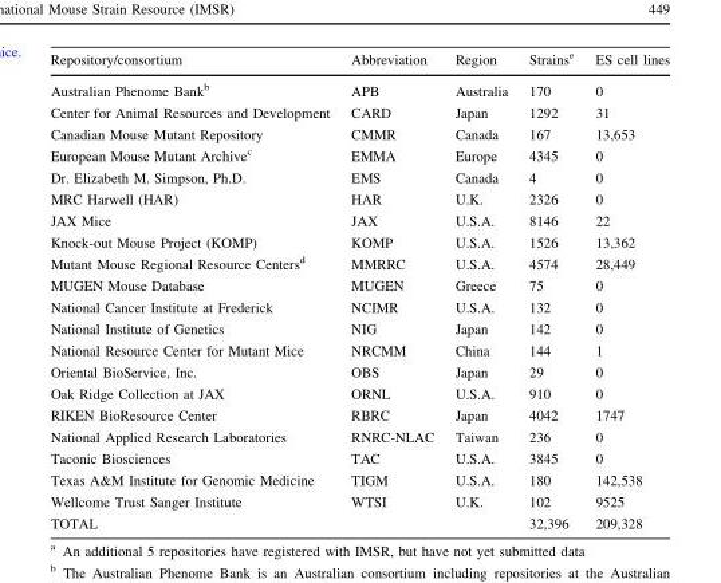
<table><thead><tr><td>Repository/consortium</td><td>Abbreviation</td><td>Region</td><td>Strains<sup>e</sup></td><td>ES cell lines</td></tr></thead><tbody><tr><td>Australian Phenome Bank<sup>b</sup></td><td>APB</td><td>Australia</td><td>170</td><td>0</td></tr><tr><td>Center for Animal Resources and Development</td><td>CARD</td><td>Japan</td><td>1292</td><td>31</td></tr><tr><td>Canadian Mouse Mutant Repository</td><td>CMMR</td><td>Canada</td><td>167</td><td>13,653</td></tr><tr><td>European Mouse Mutant Archive<sup>c</sup></td><td>EMMA</td><td>Europe</td><td>4345</td><td>0</td></tr><tr><td>Dr. Elizabeth M. Simpson, Ph.D.</td><td>EMS</td><td>Canada</td><td>4</td><td>0</td></tr><tr><td>MRC Harwell (HAR)</td><td>HAR</td><td>U.K.</td><td>2326</td><td>0</td></tr><tr><td>JAX Mice</td><td>JAX</td><td>U.S.A.</td><td>8146</td><td>22</td></tr><tr><td>Knock-out Mouse Project (KOMP)</td><td>KOMP</td><td>U.S.A.</td><td>1526</td><td>13,362</td></tr><tr><td>Mutant Mouse Regional Resource Centers<sup>d</sup></td><td>MMRRC</td><td>U.S.A.</td><td>4574</td><td>28,449</td></tr><tr><td>MUGEN Mouse Database</td><td>MUGEN</td><td>Greece</td><td>75</td><td>0</td></tr><tr><td>National Cancer Institute at Frederick</td><td>NCIMR</td><td>U.S.A.</td><td>132</td><td>0</td></tr><tr><td>National Institute of Genetics</td><td>NIG</td><td>Japan</td><td>142</td><td>0</td></tr><tr><td>National Resource Center for Mutant Mice</td><td>NRCMM</td><td>China</td><td>144</td><td>1</td></tr><tr><td>Oriental BioService, Inc.</td><td>OBS</td><td>Japan</td><td>29</td><td>0</td></tr><tr><td>Oak Ridge Collection at JAX</td><td>ORNL</td><td>U.S.A.</td><td>910</td><td>0</td></tr><tr><td>RIKEN BioResource Center</td><td>RBRC</td><td>Japan</td><td>4042</td><td>1747</td></tr><tr><td>National Applied Research Laboratories</td><td>RNRC-NLAC</td><td>Taiwan</td><td>236</td><td>0</td></tr><tr><td>Taconic Biosciences</td><td>TAC</td><td>U.S.A.</td><td>3845</td><td>0</td></tr><tr><td>Texas A&amp;M Institute for Genomic Medicine</td><td>TIGM</td><td>U.S.A.</td><td>180</td><td>142,538</td></tr><tr><td>Wellcome Trust Sanger Institute</td><td>WTSI</td><td>U.K.</td><td>102</td><td>9525</td></tr><tr><td>TOTAL</td><td></td><td></td><td>32,396</td><td>209,328</td></tr></tbody></table>